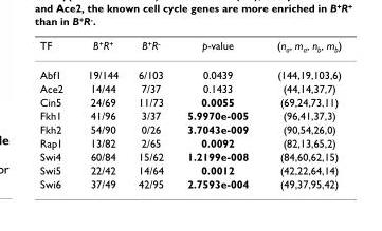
<table><thead><tr><td>TF</td><td>B<sup>+</sup>R<sup>+</sup></td><td>B<sup>+</sup>R<sup>-</sup></td><td>p-value</td><td>(n<sub>a</sub>, m<sub>a</sub>, n<sub>b</sub>, m<sub>b</sub>)</td></tr></thead><tbody><tr><td>Abf1</td><td>19/144</td><td>6/103</td><td>0.0439</td><td>(144,19,103,6)</td></tr><tr><td>Ace2</td><td>14/44</td><td>7/37</td><td>0.1433</td><td>(44,14,37,7)</td></tr><tr><td>Cin5</td><td>24/69</td><td>11/73</td><td>0.0055</td><td>(69,24,73,11)</td></tr><tr><td>Fkh1</td><td>41/96</td><td>3/37</td><td>5.9970e-005</td><td>(96,41,37,3)</td></tr><tr><td>Fkh2</td><td>54/90</td><td>0/26</td><td>3.7043e-009</td><td>(90,54,26,0)</td></tr><tr><td>Rap1</td><td>13/82</td><td>2/65</td><td>0.0092</td><td>(82,13,65,2)</td></tr><tr><td>Swi4</td><td>60/84</td><td>15/62</td><td>1.2199e-008</td><td>(84,60,62,15)</td></tr><tr><td>Swi5</td><td>22/42</td><td>14/64</td><td>0.0012</td><td>(42,22,64,14)</td></tr><tr><td>Swi6</td><td>37/49</td><td>42/95</td><td>2.7593e-004</td><td>(49,37,95,42)</td></tr></tbody></table>